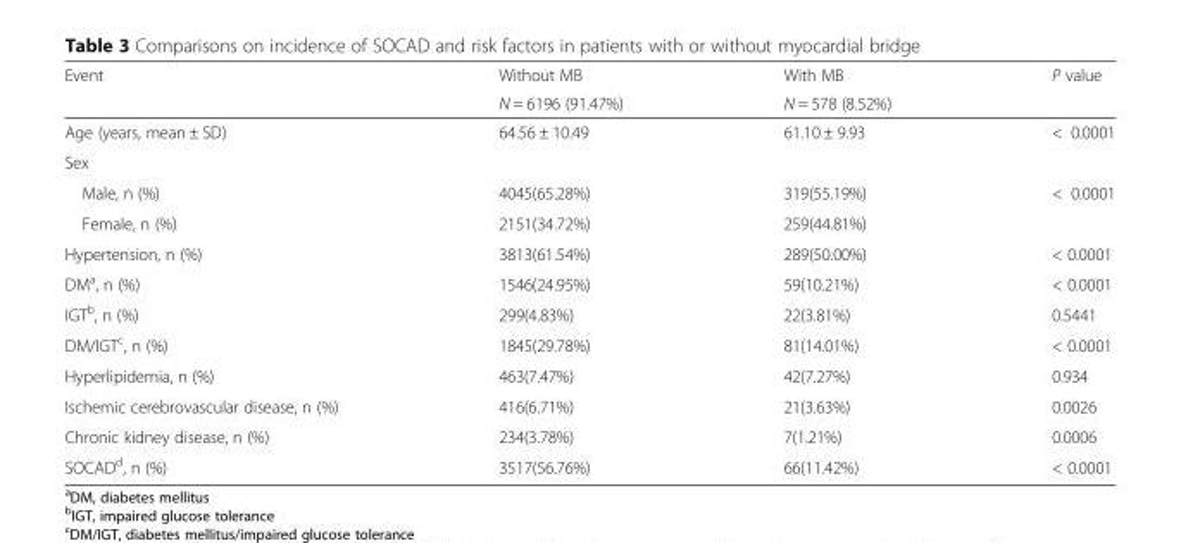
<table><thead><tr><td rowspan="2">Event</td><td rowspan="2">Without MB N = 6196 (91.47%)</td><td rowspan="2">With MB N = 578 (8.52%)</td><td rowspan="2">P value</td></tr><tr></tr></thead><tbody><tr><td>Age (years, mean ± SD)</td><td>64.56 ± 10.49</td><td>61.10 ± 9.93</td><td>&lt; 0.0001</td></tr><tr><td colspan="4">Sex</td></tr><tr><td>Male, n (%)</td><td>4045(65.28%)</td><td>319(55.19%)</td><td rowspan="2">&lt; 0.0001</td></tr><tr><td>Female, n (%)</td><td>2151(34.72%)</td><td>259(44.81%)</td></tr><tr><td>Hypertension, n (%)</td><td>3813(61.54%)</td><td>289(50.00%)</td><td>&lt; 0.0001</td></tr><tr><td>DM<sup>a</sup>, n (%)</td><td>1546(24.95%)</td><td>59(10.21%)</td><td>&lt; 0.0001</td></tr><tr><td>IGT<sup>b</sup>, n (%)</td><td>299(4.83%)</td><td>22(3.81%)</td><td>0.5441</td></tr><tr><td>DM/IGT<sup>c</sup>, n (%)</td><td>1845(29.78%)</td><td>81(14.01%)</td><td>&lt; 0.0001</td></tr><tr><td>Hyperlipidemia, n (%)</td><td>463(7.47%)</td><td>42(7.27%)</td><td>0.934</td></tr><tr><td>Ischemic cerebrovascular disease, n (%)</td><td>416(6.71%)</td><td>21(3.63%)</td><td>0.0026</td></tr><tr><td>Chronic kidney disease, n (%)</td><td>234(3.78%)</td><td>7(1.21%)</td><td>0.0006</td></tr><tr><td>SOCAD<sup>d</sup>, n (%)</td><td>3517(56.76%)</td><td>66(11.42%)</td><td>&lt; 0.0001</td></tr></tbody></table>